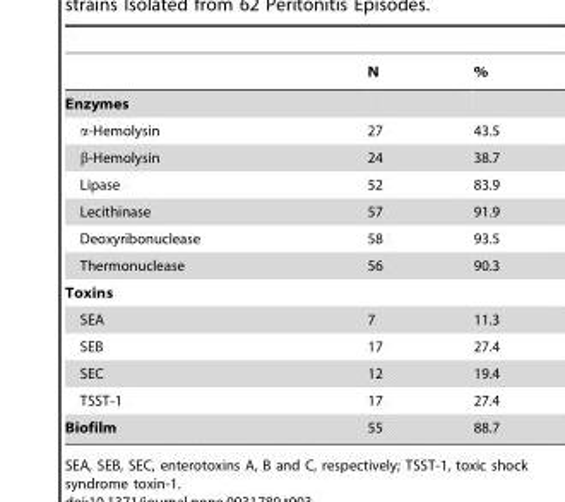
<table><thead><tr><td></td><td>N</td><td>%</td></tr></thead><tbody><tr><td colspan="3">Enzymes</td></tr><tr><td>α-Hemolysin</td><td>27</td><td>43.5</td></tr><tr><td>β-Hemolysin</td><td>24</td><td>38.7</td></tr><tr><td>Lipase</td><td>52</td><td>83.9</td></tr><tr><td>Lecithinase</td><td>57</td><td>91.9</td></tr><tr><td>Deoxyribonuclease</td><td>58</td><td>93.5</td></tr><tr><td>Thermonuclease</td><td>56</td><td>90.3</td></tr><tr><td colspan="3">Toxins</td></tr><tr><td>SEA</td><td>7</td><td>11.3</td></tr><tr><td>SEB</td><td>17</td><td>27.4</td></tr><tr><td>SEC</td><td>12</td><td>19.4</td></tr><tr><td>TSST-1</td><td>17</td><td>27.4</td></tr><tr><td>Biofilm</td><td>55</td><td>88.7</td></tr></tbody></table>